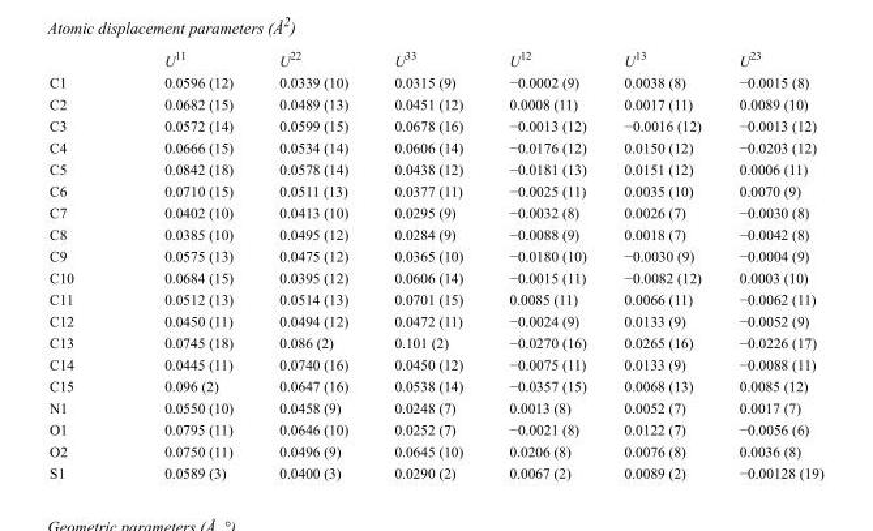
<table><thead><tr><td></td><td>U<sup>11</sup></td><td>U<sup>22</sup></td><td>U<sup>33</sup></td><td>U<sup>12</sup></td><td>U<sup>13</sup></td><td>U<sup>23</sup></td></tr></thead><tbody><tr><td>C1</td><td>0.0596 (12)</td><td>0.0339 (10)</td><td>0.0315 (9)</td><td>−0.0002 (9)</td><td>0.0038 (8)</td><td>−0.0015 (8)</td></tr><tr><td>C2</td><td>0.0682 (15)</td><td>0.0489 (13)</td><td>0.0451 (12)</td><td>0.0008 (11)</td><td>0.0017 (11)</td><td>0.0089 (10)</td></tr><tr><td>C3</td><td>0.0572 (14)</td><td>0.0599 (15)</td><td>0.0678 (16)</td><td>−0.0013 (12)</td><td>−0.0016 (12)</td><td>−0.0013 (12)</td></tr><tr><td>C4</td><td>0.0666 (15)</td><td>0.0534 (14)</td><td>0.0606 (14)</td><td>−0.0176 (12)</td><td>0.0150 (12)</td><td>−0.0203 (12)</td></tr><tr><td>C5</td><td>0.0842 (18)</td><td>0.0578 (14)</td><td>0.0438 (12)</td><td>−0.0181 (13)</td><td>0.0151 (12)</td><td>0.0006 (11)</td></tr><tr><td>C6</td><td>0.0710 (15)</td><td>0.0511 (13)</td><td>0.0377 (11)</td><td>−0.0025 (11)</td><td>0.0035 (10)</td><td>0.0070 (9)</td></tr><tr><td>C7</td><td>0.0402 (10)</td><td>0.0413 (10)</td><td>0.0295 (9)</td><td>−0.0032 (8)</td><td>0.0026 (7)</td><td>−0.0030 (8)</td></tr><tr><td>C8</td><td>0.0385 (10)</td><td>0.0495 (12)</td><td>0.0284 (9)</td><td>−0.0088 (9)</td><td>0.0018 (7)</td><td>−0.0042 (8)</td></tr><tr><td>C9</td><td>0.0575 (13)</td><td>0.0475 (12)</td><td>0.0365 (10)</td><td>−0.0180 (10)</td><td>−0.0030 (9)</td><td>−0.0004 (9)</td></tr><tr><td>C10</td><td>0.0684 (15)</td><td>0.0395 (12)</td><td>0.0606 (14)</td><td>−0.0015 (11)</td><td>−0.0082 (12)</td><td>0.0003 (10)</td></tr><tr><td>C11</td><td>0.0512 (13)</td><td>0.0514 (13)</td><td>0.0701 (15)</td><td>0.0085 (11)</td><td>0.0066 (11)</td><td>−0.0062 (11)</td></tr><tr><td>C12</td><td>0.0450 (11)</td><td>0.0494 (12)</td><td>0.0472 (11)</td><td>−0.0024 (9)</td><td>0.0133 (9)</td><td>−0.0052 (9)</td></tr><tr><td>C13</td><td>0.0745 (18)</td><td>0.086 (2)</td><td>0.101 (2)</td><td>−0.0270 (16)</td><td>0.0265 (16)</td><td>−0.0226 (17)</td></tr><tr><td>C14</td><td>0.0445 (11)</td><td>0.0740 (16)</td><td>0.0450 (12)</td><td>−0.0075 (11)</td><td>0.0133 (9)</td><td>−0.0088 (11)</td></tr><tr><td>C15</td><td>0.096 (2)</td><td>0.0647 (16)</td><td>0.0538 (14)</td><td>−0.0357 (15)</td><td>0.0068 (13)</td><td>0.0085 (12)</td></tr><tr><td>N1</td><td>0.0550 (10)</td><td>0.0458 (9)</td><td>0.0248 (7)</td><td>0.0013 (8)</td><td>0.0052 (7)</td><td>0.0017 (7)</td></tr><tr><td>O1</td><td>0.0795 (11)</td><td>0.0646 (10)</td><td>0.0252 (7)</td><td>−0.0021 (8)</td><td>0.0122 (7)</td><td>−0.0056 (6)</td></tr><tr><td>O2</td><td>0.0750 (11)</td><td>0.0496 (9)</td><td>0.0645 (10)</td><td>0.0206 (8)</td><td>0.0076 (8)</td><td>0.0036 (8)</td></tr><tr><td>S1</td><td>0.0589 (3)</td><td>0.0400 (3)</td><td>0.0290 (2)</td><td>0.0067 (2)</td><td>0.0089 (2)</td><td>−0.00128 (19)</td></tr></tbody></table>